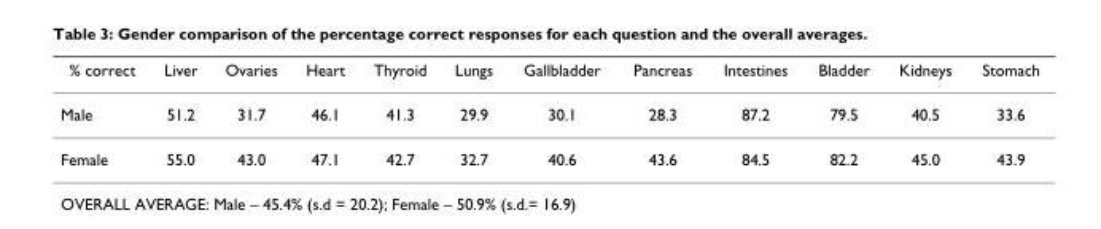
<table><thead><tr><td>% correct</td><td>Liver</td><td>Ovaries</td><td>Heart</td><td>Thyroid</td><td>Lungs</td><td>Gallbladder</td><td>Pancreas</td><td>Intestines</td><td>Bladder</td><td>Kidneys</td><td>Stomach</td></tr></thead><tbody><tr><td>Male</td><td>51.2</td><td>31.7</td><td>46.1</td><td>41.3</td><td>29.9</td><td>30.1</td><td>28.3</td><td>87.2</td><td>79.5</td><td>40.5</td><td>33.6</td></tr><tr><td>Female</td><td>55.0</td><td>43.0</td><td>47.1</td><td>42.7</td><td>32.7</td><td>40.6</td><td>43.6</td><td>84.5</td><td>82.2</td><td>45.0</td><td>43.9</td></tr></tbody></table>